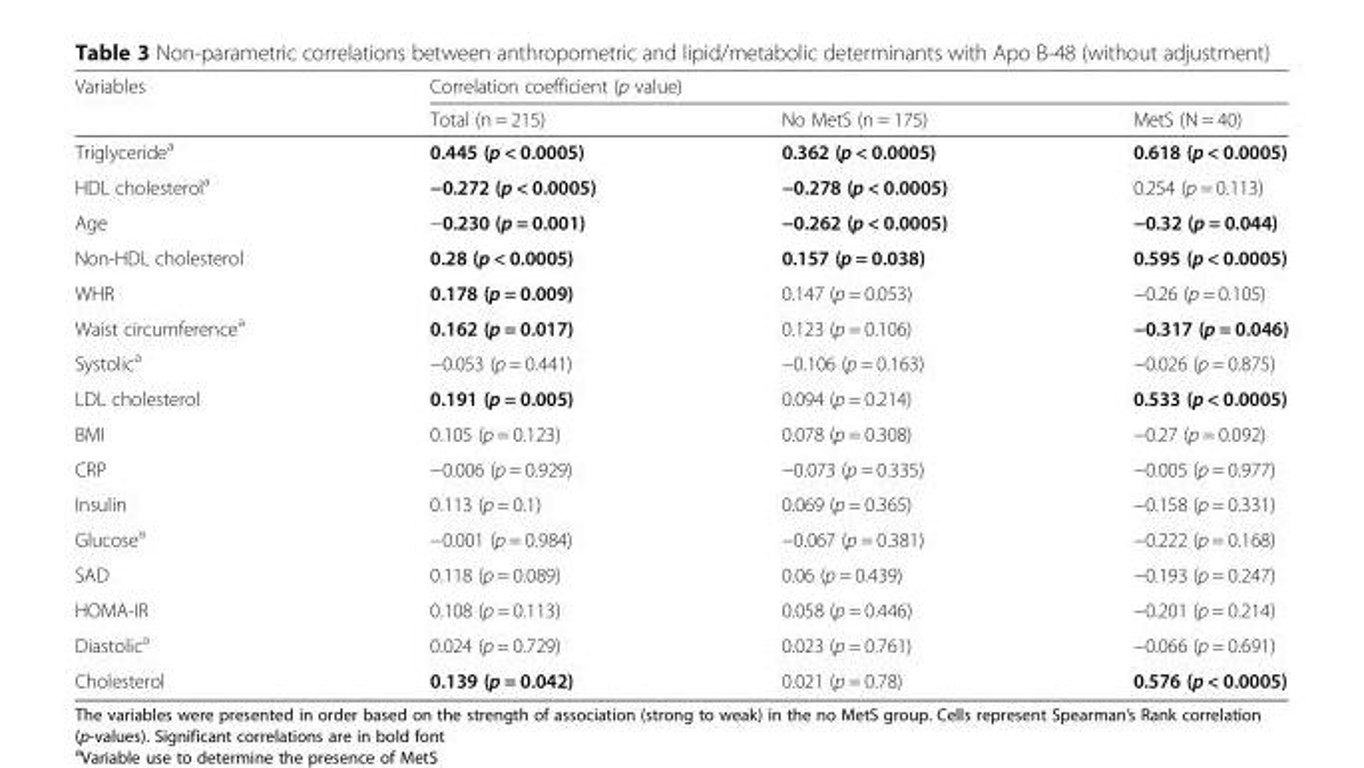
<table><thead><tr><td rowspan="2">Variables</td><td colspan="3">Correlation coefficient (p value)</td></tr><tr><td>Total (n = 215)</td><td>No MetS (n = 175)</td><td>MetS (N = 40)</td></tr></thead><tbody><tr><td>Triglyceride<sup>a</sup></td><td>0.445 (p &lt; 0.0005)</td><td>0.362 (p &lt; 0.0005)</td><td>0.618 (p &lt; 0.0005)</td></tr><tr><td>HDL cholesterol<sup>a</sup></td><td>−0.272 (p &lt; 0.0005)</td><td>−0.278 (p &lt; 0.0005)</td><td>0.254 (p = 0.113)</td></tr><tr><td>Age</td><td>−0.230 (p = 0.001)</td><td>−0.262 (p &lt; 0.0005)</td><td>−0.32 (p = 0.044)</td></tr><tr><td>Non-HDL cholesterol</td><td>0.28 (p &lt; 0.0005)</td><td>0.157 (p = 0.038)</td><td>0.595 (p &lt; 0.0005)</td></tr><tr><td>WHR</td><td>0.178 (p = 0.009)</td><td>0.147 (p = 0.053)</td><td>−0.26 (p = 0.105)</td></tr><tr><td>Waist circumference<sup>a</sup></td><td>0.162 (p = 0.017)</td><td>0.123 (p = 0.106)</td><td>−0.317 (p = 0.046)</td></tr><tr><td>Systolic<sup>a</sup></td><td>−0.053 (p = 0.441)</td><td>−0.106 (p = 0.163)</td><td>−0.026 (p = 0.875)</td></tr><tr><td>LDL cholesterol</td><td>0.191 (p = 0.005)</td><td>0.094 (p = 0.214)</td><td>0.533 (p &lt; 0.0005)</td></tr><tr><td>BMI</td><td>0.105 (p = 0.123)</td><td>0.078 (p = 0.308)</td><td>−0.27 (p = 0.092)</td></tr><tr><td>CRP</td><td>−0.006 (p = 0.929)</td><td>−0.073 (p = 0.335)</td><td>−0.005 (p = 0.977)</td></tr><tr><td>Insulin</td><td>0.113 (p = 0.1)</td><td>0.069 (p = 0.365)</td><td>−0.158 (p = 0.331)</td></tr><tr><td>Glucose<sup>a</sup></td><td>−0.001 (p = 0.984)</td><td>−0.067 (p = 0.381)</td><td>−0.222 (p = 0.168)</td></tr><tr><td>SAD</td><td>0.118 (p = 0.089)</td><td>0.06 (p = 0.439)</td><td>−0.193 (p = 0.247)</td></tr><tr><td>HOMA-IR</td><td>0.108 (p = 0.113)</td><td>0.058 (p = 0.446)</td><td>−0.201 (p = 0.214)</td></tr><tr><td>Diastolic<sup>a</sup></td><td>0.024 (p = 0.729)</td><td>0.023 (p = 0.761)</td><td>−0.066 (p = 0.691)</td></tr><tr><td>Cholesterol</td><td>0.139 (p = 0.042)</td><td>0.021 (p = 0.78)</td><td>0.576 (p &lt; 0.0005)</td></tr></tbody></table>